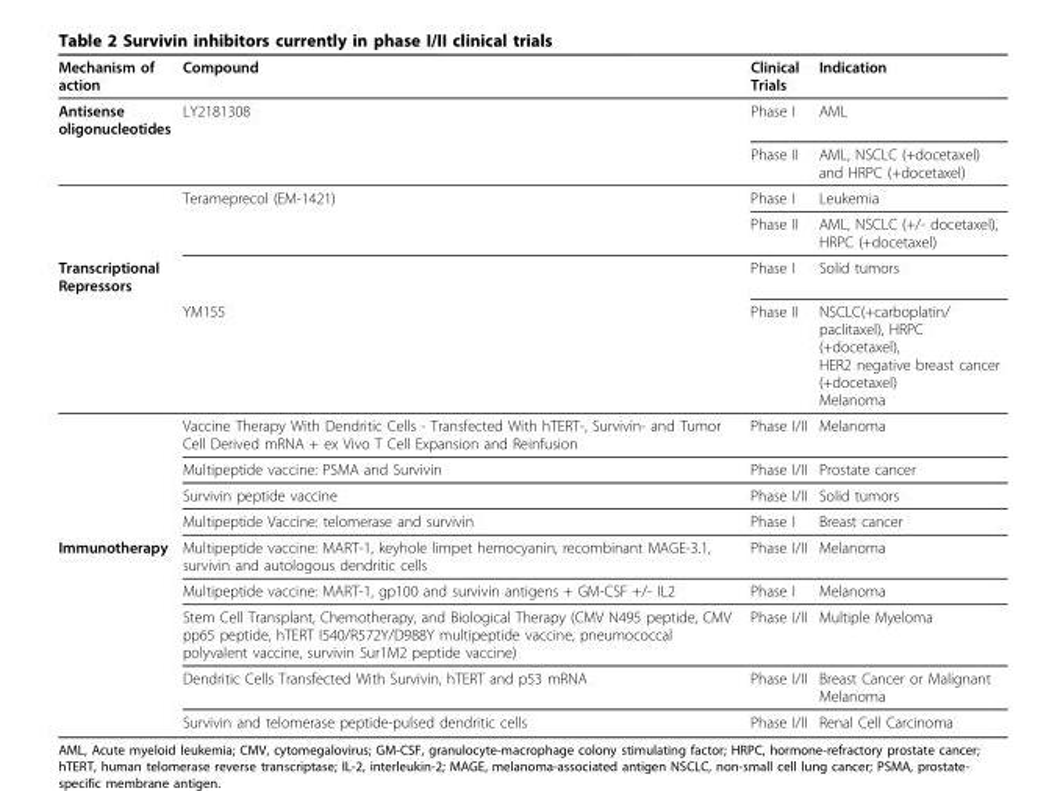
<table><thead><tr><td>Mechanism of action</td><td>Compound</td><td>Clinical Trials</td><td>Indication</td></tr></thead><tbody><tr><td rowspan="4">Antisense oligonucleotides</td><td>LY2181308</td><td>Phase I</td><td>AML</td></tr><tr><td></td><td>Phase II</td><td>AML, NSCLC (+docetaxel) and HRPC (+docetaxel)</td></tr><tr><td>Terameprecol (EM-1421)</td><td>Phase I</td><td>Leukemia</td></tr><tr><td></td><td>Phase II</td><td>AML, NSCLC (+/- docetaxel), HRPC (+docetaxel)</td></tr><tr><td rowspan="6">Transcriptional Repressors</td><td></td><td>Phase I</td><td>Solid tumors</td></tr><tr><td>YM155</td><td>Phase II</td><td>NSCLC(+carboplatin/ paclitaxel), HRPC (+docetaxel), HER2 negative breast cancer (+docetaxel) Melanoma</td></tr><tr><td>Vaccine Therapy With Dendritic Cells - Transfected With hTERT-, Survivin- and Tumor Cell Derived mRNA + ex Vivo T Cell Expansion and Reinfusion</td><td>Phase I/II</td><td>Melanoma</td></tr><tr><td>Multipeptide vaccine: PSMA and Survivin</td><td>Phase I/II</td><td>Prostate cancer</td></tr><tr><td>Survivin peptide vaccine</td><td>Phase I/II</td><td>Solid tumors</td></tr><tr><td>Multipeptide Vaccine: telomerase and survivin</td><td>Phase I</td><td>Breast cancer</td></tr><tr><td rowspan="5">Immunotherapy</td><td>Multipeptide vaccine: MART-1, keyhole limpet hemocyanin, recombinant MAGE-3.1, survivin and autologous dendritic cells</td><td>Phase I/II</td><td>Melanoma</td></tr><tr><td>Multipeptide vaccine: MART-1, gp100 and survivin antigens + GM-CSF +/- IL2</td><td>Phase I</td><td>Melanoma</td></tr><tr><td>Stem Cell Transplant, Chemotherapy, and Biological Therapy (CMV N495 peptide, CMV pp65 peptide, hTERT I540/R572Y/D988Y multipeptide vaccine, pneumococcal polyvalent vaccine, survivin Sur1M2 peptide vaccine)</td><td>Phase I/II</td><td>Multiple Myeloma</td></tr><tr><td>Dendritic Cells Transfected With Survivin, hTERT and p53 mRNA</td><td>Phase I/II</td><td>Breast Cancer or Malignant Melanoma</td></tr><tr><td>Survivin and telomerase peptide-pulsed dendritic cells</td><td>Phase I/II</td><td>Renal Cell Carcinoma</td></tr></tbody></table>